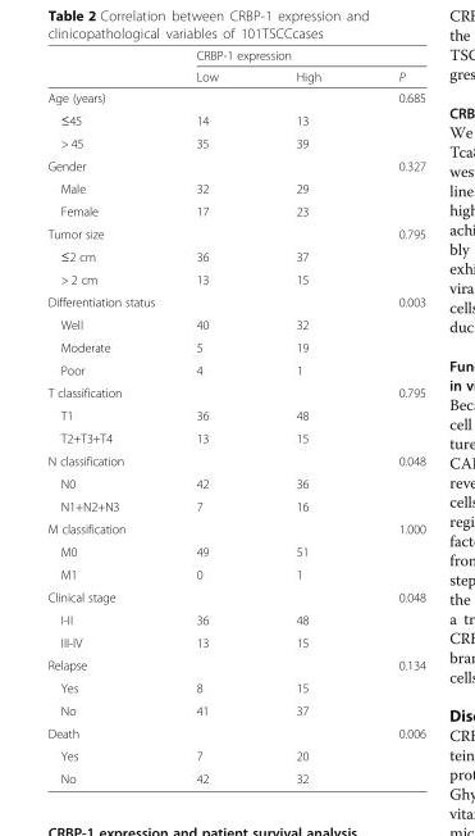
<table><thead><tr><td rowspan="2"></td><td colspan="3">CRBP-1 expression</td></tr><tr><td>Low</td><td>High</td><td>P</td></tr></thead><tbody><tr><td colspan="3">Age (years)</td><td>0.685</td></tr><tr><td>≤45</td><td>14</td><td>13</td><td rowspan="2"></td></tr><tr><td>&gt; 45</td><td>35</td><td>39</td></tr><tr><td colspan="3">Gender</td><td>0.327</td></tr><tr><td>Male</td><td>32</td><td>29</td><td rowspan="2"></td></tr><tr><td>Female</td><td>17</td><td>23</td></tr><tr><td colspan="3">Tumor size</td><td>0.795</td></tr><tr><td>≤2 cm</td><td>36</td><td>37</td><td rowspan="2"></td></tr><tr><td>&gt; 2 cm</td><td>13</td><td>15</td></tr><tr><td colspan="3">Differentiation status</td><td>0.003</td></tr><tr><td>Well</td><td>40</td><td>32</td><td rowspan="3"></td></tr><tr><td>Moderate</td><td>5</td><td>19</td></tr><tr><td>Poor</td><td>4</td><td>1</td></tr><tr><td colspan="3">T classification</td><td>0.795</td></tr><tr><td>T1</td><td>36</td><td>48</td><td rowspan="2"></td></tr><tr><td>T2+T3+T4</td><td>13</td><td>15</td></tr><tr><td colspan="3">N classification</td><td>0.048</td></tr><tr><td>N0</td><td>42</td><td>36</td><td rowspan="2"></td></tr><tr><td>N1+N2+N3</td><td>7</td><td>16</td></tr><tr><td colspan="3">M classification</td><td>1.000</td></tr><tr><td>M0</td><td>49</td><td>51</td><td rowspan="2"></td></tr><tr><td>M1</td><td>0</td><td>1</td></tr><tr><td colspan="3">Clinical stage</td><td>0.048</td></tr><tr><td>I-II</td><td>36</td><td>48</td><td rowspan="2"></td></tr><tr><td>III-IV</td><td>13</td><td>15</td></tr><tr><td colspan="3">Relapse</td><td>0.134</td></tr><tr><td>Yes</td><td>8</td><td>15</td><td rowspan="2"></td></tr><tr><td>No</td><td>41</td><td>37</td></tr><tr><td colspan="3">Death</td><td>0.006</td></tr><tr><td>Yes</td><td>7</td><td>20</td><td rowspan="2"></td></tr><tr><td>No</td><td>42</td><td>32</td></tr></tbody></table>